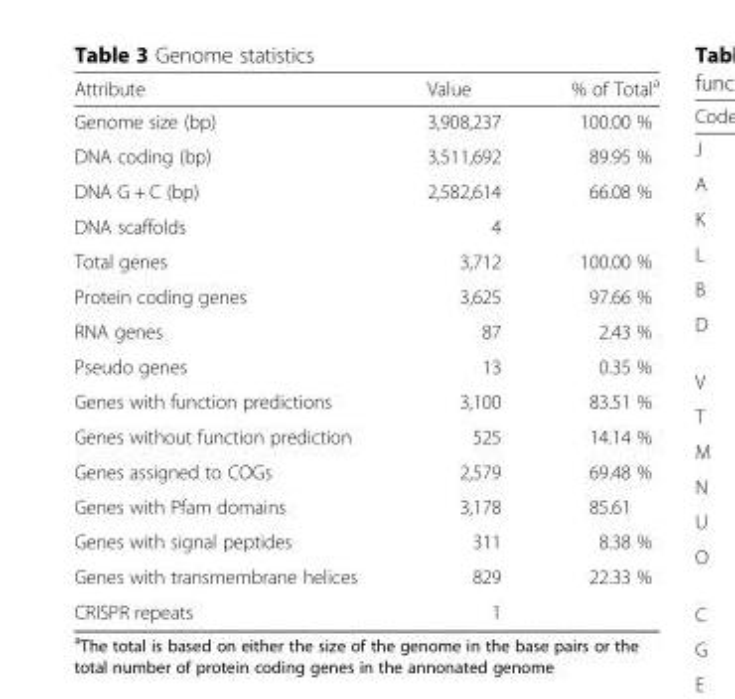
<table><thead><tr><td>Attribute</td><td>Value</td><td>% of Total<sup>a</sup></td></tr></thead><tbody><tr><td>Genome size (bp)</td><td>3,908,237</td><td>100.00 %</td></tr><tr><td>DNA coding (bp)</td><td>3,511,692</td><td>89.95 %</td></tr><tr><td>DNA G + C (bp)</td><td>2,582,614</td><td>66.08 %</td></tr><tr><td>DNA scaffolds</td><td>4</td><td></td></tr><tr><td>Total genes</td><td>3,712</td><td>100.00 %</td></tr><tr><td>Protein coding genes</td><td>3,625</td><td>97.66 %</td></tr><tr><td>RNA genes</td><td>87</td><td>2.43 %</td></tr><tr><td>Pseudo genes</td><td>13</td><td>0.35 %</td></tr><tr><td>Genes with function predictions</td><td>3,100</td><td>83.51 %</td></tr><tr><td>Genes without function prediction</td><td>525</td><td>14.14 %</td></tr><tr><td>Genes assigned to COGs</td><td>2,579</td><td>69.48 %</td></tr><tr><td>Genes with Pfam domains</td><td>3,178</td><td>85.61</td></tr><tr><td>Genes with signal peptides</td><td>311</td><td>8.38 %</td></tr><tr><td>Genes with transmembrane helices</td><td>829</td><td>22.33 %</td></tr><tr><td>CRISPR repeats</td><td>1</td><td></td></tr></tbody></table>